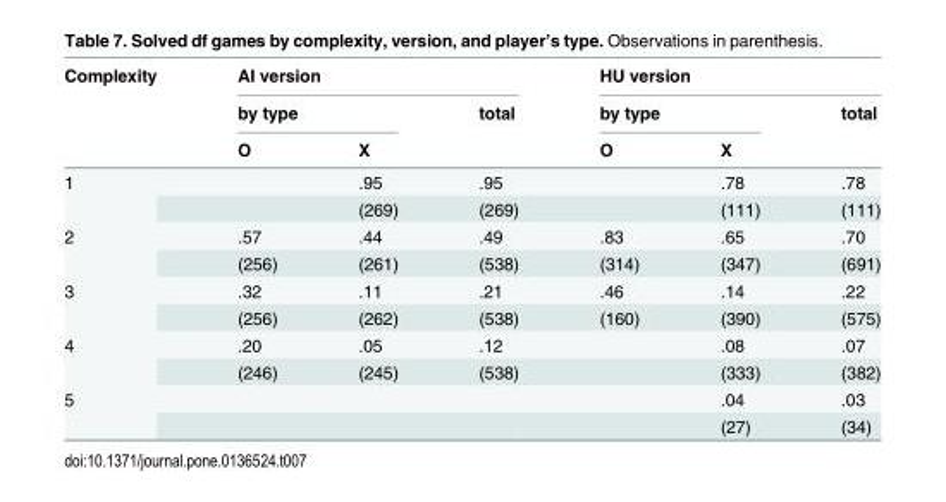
<table><thead><tr><td rowspan="3">Complexity</td><td colspan="3">AI version</td><td colspan="3">HU version</td></tr><tr><td colspan="2">by type</td><td rowspan="2">total</td><td colspan="2">by type</td><td rowspan="2">total</td></tr><tr><td>O</td><td>X</td><td>O</td><td>X</td></tr></thead><tbody><tr><td rowspan="2">1</td><td></td><td>.95</td><td>.95</td><td></td><td>.78</td><td>.78</td></tr><tr><td></td><td>(269)</td><td>(269)</td><td></td><td>(111)</td><td>(111)</td></tr><tr><td rowspan="2">2</td><td>.57</td><td>.44</td><td>.49</td><td>.83</td><td>.65</td><td>.70</td></tr><tr><td>(256)</td><td>(261)</td><td>(538)</td><td>(314)</td><td>(347)</td><td>(691)</td></tr><tr><td rowspan="2">3</td><td>.32</td><td>.11</td><td>.21</td><td>.46</td><td>.14</td><td>.22</td></tr><tr><td>(256)</td><td>(262)</td><td>(538)</td><td>(160)</td><td>(390)</td><td>(575)</td></tr><tr><td rowspan="2">4</td><td>.20</td><td>.05</td><td>.12</td><td></td><td>.08</td><td>.07</td></tr><tr><td>(246)</td><td>(245)</td><td>(538)</td><td></td><td>(333)</td><td>(382)</td></tr><tr><td rowspan="2">5</td><td></td><td></td><td></td><td></td><td>.04</td><td>.03</td></tr><tr><td></td><td></td><td></td><td></td><td>(27)</td><td>(34)</td></tr></tbody></table>